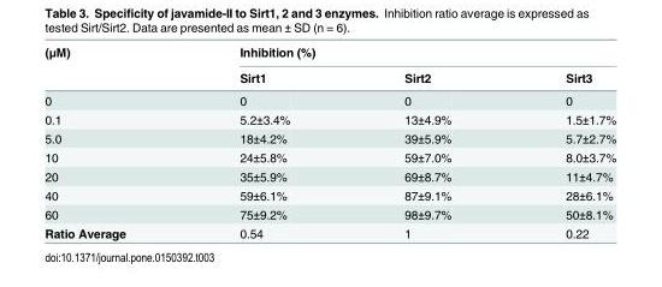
<table><thead><tr><td rowspan="2">(μM)</td><td colspan="3">Inhibition (%)</td></tr><tr><td>Sirt1</td><td>Sirt2</td><td>Sirt3</td></tr></thead><tbody><tr><td>0</td><td>0</td><td>0</td><td>0</td></tr><tr><td>0.1</td><td>5.2±3.4%</td><td>13±4.9%</td><td>1.5±1.7%</td></tr><tr><td>5.0</td><td>18±4.2%</td><td>39±5.9%</td><td>5.7±2.7%</td></tr><tr><td>10</td><td>24±5.8%</td><td>59±7.0%</td><td>8.0±3.7%</td></tr><tr><td>20</td><td>35±5.9%</td><td>69±8.7%</td><td>11±4.7%</td></tr><tr><td>40</td><td>59±6.1%</td><td>87±9.1%</td><td>28±6.1%</td></tr><tr><td>60</td><td>75±9.2%</td><td>98±9.7%</td><td>50±8.1%</td></tr><tr><td>Ratio Average</td><td>0.54</td><td>1</td><td>0.22</td></tr></tbody></table>